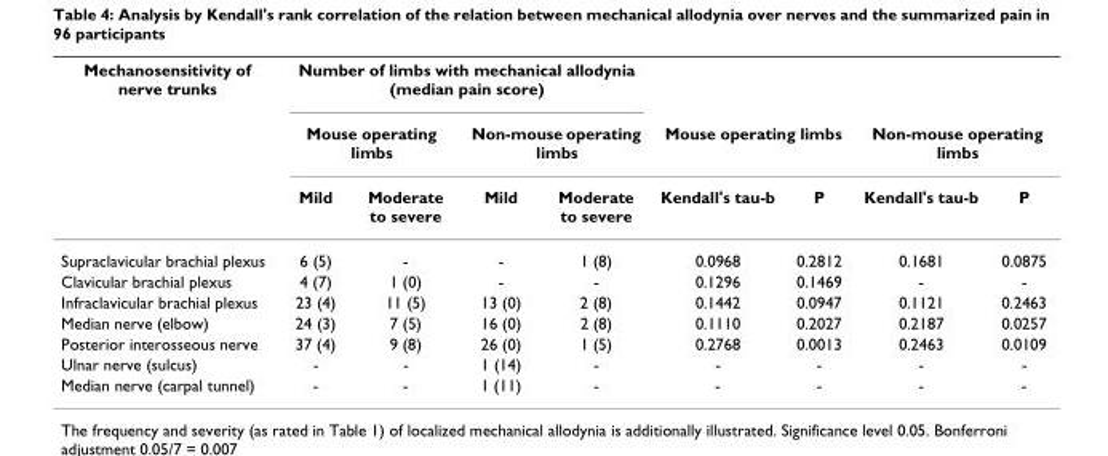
<table><thead><tr><td rowspan="3">Mechanosensitivity of nerve trunks</td><td colspan="4">Number of limbs with mechanical allodynia (median pain score)</td><td></td><td></td><td></td><td></td></tr><tr><td colspan="2">Mouse operating limbs</td><td colspan="2">Non-mouse operating limbs</td><td colspan="2">Mouse operating limbs</td><td colspan="2">Non-mouse operating limbs</td></tr><tr><td>Mild</td><td>Moderate to severe</td><td>Mild</td><td>Moderate to severe</td><td>Kendall&#x27;s tau-b</td><td>P</td><td>Kendall&#x27;s tau-b</td><td>P</td></tr></thead><tbody><tr><td>Supraclavicular brachial plexus</td><td>6 (5)</td><td>-</td><td>-</td><td>1 (8)</td><td>0.0968</td><td>0.2812</td><td>0.1681</td><td>0.0875</td></tr><tr><td>Clavicular brachial plexus</td><td>4 (7)</td><td>1 (0)</td><td>-</td><td>-</td><td>0.1296</td><td>0.1469</td><td>-</td><td>-</td></tr><tr><td>Infraclavicular brachial plexus</td><td>23 (4)</td><td>11 (5)</td><td>13 (0)</td><td>2 (8)</td><td>0.1442</td><td>0.0947</td><td>0.1121</td><td>0.2463</td></tr><tr><td>Median nerve (elbow)</td><td>24 (3)</td><td>7 (5)</td><td>16 (0)</td><td>2 (8)</td><td>0.1110</td><td>0.2027</td><td>0.2187</td><td>0.0257</td></tr><tr><td>Posterior interosseous nerve</td><td>37 (4)</td><td>9 (8)</td><td>26 (0)</td><td>1 (5)</td><td>0.2768</td><td>0.0013</td><td>0.2463</td><td>0.0109</td></tr><tr><td>Ulnar nerve (sulcus)</td><td>-</td><td>-</td><td>1 (14)</td><td>-</td><td>-</td><td>-</td><td>-</td><td>-</td></tr><tr><td>Median nerve (carpal tunnel)</td><td>-</td><td>-</td><td>1 (11)</td><td>-</td><td>-</td><td>-</td><td>-</td><td>-</td></tr></tbody></table>